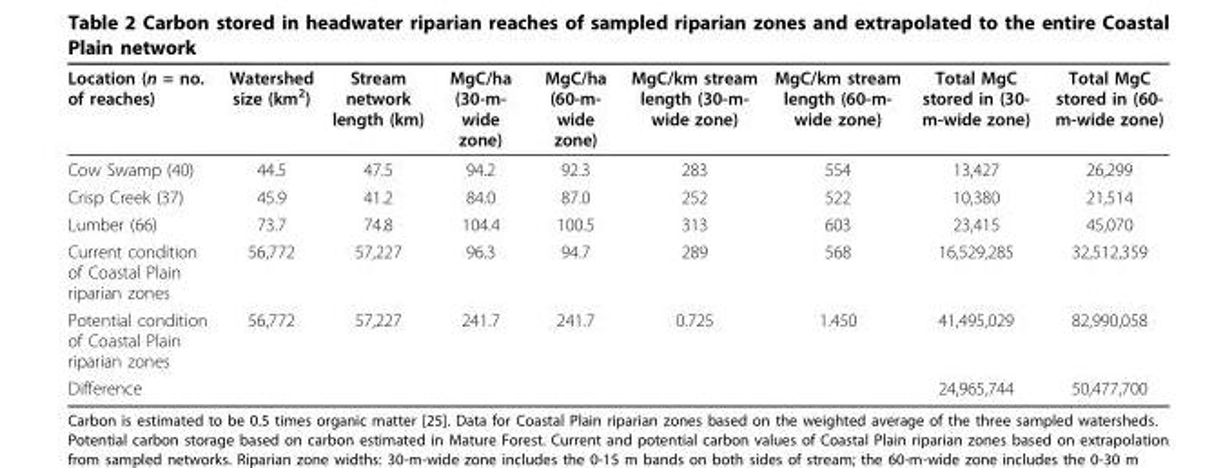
<table><thead><tr><td>Location (n = no. of reaches)</td><td>Watershed size (km<sup>2</sup>)</td><td>Stream network length (km)</td><td>MgC/ha (30-m- wide zone)</td><td>MgC/ha (60-m- wide zone)</td><td>MgC/km stream length (30-m- wide zone)</td><td>MgC/km stream length (60-m- wide zone)</td><td>Total MgC stored in (30- m-wide zone)</td><td>Total MgC stored in (60- m-wide zone)</td></tr></thead><tbody><tr><td>Cow Swamp (40)</td><td>44.5</td><td>47.5</td><td>94.2</td><td>92.3</td><td>283</td><td>554</td><td>13,427</td><td>26,299</td></tr><tr><td>Crisp Creek (37)</td><td>45.9</td><td>41.2</td><td>84.0</td><td>87.0</td><td>252</td><td>522</td><td>10,380</td><td>21,514</td></tr><tr><td>Lumber (66)</td><td>73.7</td><td>74.8</td><td>104.4</td><td>100.5</td><td>313</td><td>603</td><td>23,415</td><td>45,070</td></tr><tr><td>Current condition of Coastal Plain riparian zones</td><td>56,772</td><td>57,227</td><td>96.3</td><td>94.7</td><td>289</td><td>568</td><td>16,529,285</td><td>32,512,359</td></tr><tr><td>Potential condition of Coastal Plain riparian zones</td><td>56,772</td><td>57,227</td><td>241.7</td><td>241.7</td><td>0.725</td><td>1.450</td><td>41,495,029</td><td>82,990,058</td></tr><tr><td>Difference</td><td></td><td></td><td></td><td></td><td></td><td></td><td>24,965,744</td><td>50,477,700</td></tr></tbody></table>